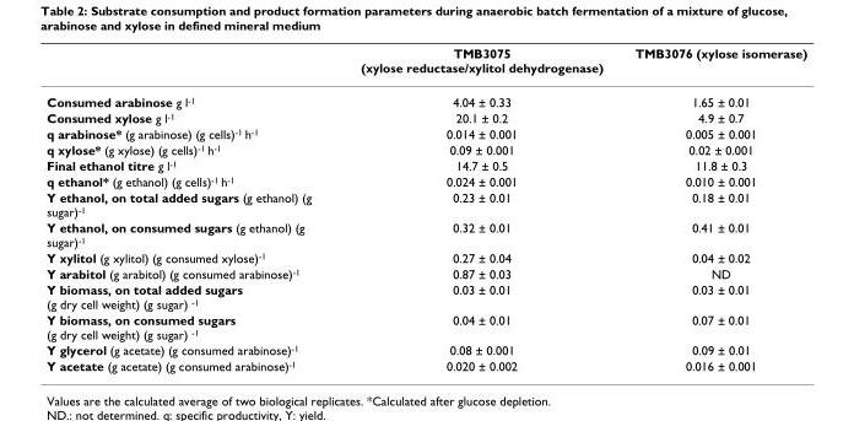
<table><thead><tr><td></td><td>TMB3075 (xylose reductase/xylitol dehydrogenase)</td><td>TMB3076 (xylose isomerase)</td></tr></thead><tbody><tr><td>Consumed arabinose g l<sup>-1</sup></td><td>4.04 ± 0.33</td><td>1.65 ± 0.01</td></tr><tr><td>Consumed xylose g l<sup>-1</sup></td><td>20.1 ± 0.2</td><td>4.9 ± 0.7</td></tr><tr><td>q arabinose* (g arabinose) (g cells)<sup>-1</sup> h<sup>-1</sup></td><td>0.014 ± 0.001</td><td>0.005 ± 0.001</td></tr><tr><td>q xylose* (g xylose) (g cells)<sup>-1</sup> h<sup>-1</sup></td><td>0.09 ± 0.001</td><td>0.02 ± 0.001</td></tr><tr><td>Final ethanol titre g l<sup>-1</sup></td><td>14.7 ± 0.5</td><td>11.8 ± 0.3</td></tr><tr><td>q ethanol* (g ethanol) (g cells)<sup>-1</sup> h<sup>-1</sup></td><td>0.024 ± 0.001</td><td>0.010 ± 0.001</td></tr><tr><td>Y ethanol, on total added sugars (g ethanol) (g sugar)<sup>-1</sup></td><td>0.23 ± 0.01</td><td>0.18 ± 0.01</td></tr><tr><td>Y ethanol, on consumed sugars (g ethanol) (g sugar)<sup>-1</sup></td><td>0.32 ± 0.01</td><td>0.41 ± 0.01</td></tr><tr><td>Y xylitol (g xylitol) (g consumed xylose)<sup>-1</sup></td><td>0.27 ± 0.04</td><td>0.04 ± 0.02</td></tr><tr><td>Y arabitol (g arabitol) (g consumed arabinose)<sup>-1</sup></td><td>0.87 ± 0.03</td><td>ND</td></tr><tr><td>Y biomass, on total added sugars (g dry cell weight) (g sugar) <sup>-1</sup></td><td>0.03 ± 0.01</td><td>0.03 ± 0.01</td></tr><tr><td>Y biomass, on consumed sugars (g dry cell weight) (g sugar) <sup>-1</sup></td><td>0.04 ± 0.01</td><td>0.07 ± 0.01</td></tr><tr><td>Y glycerol (g acetate) (g consumed arabinose)<sup>-1</sup></td><td>0.08 ± 0.001</td><td>0.09 ± 0.01</td></tr><tr><td>Y acetate (g acetate) (g consumed arabinose)<sup>-1</sup></td><td>0.020 ± 0.002</td><td>0.016 ± 0.001</td></tr></tbody></table>